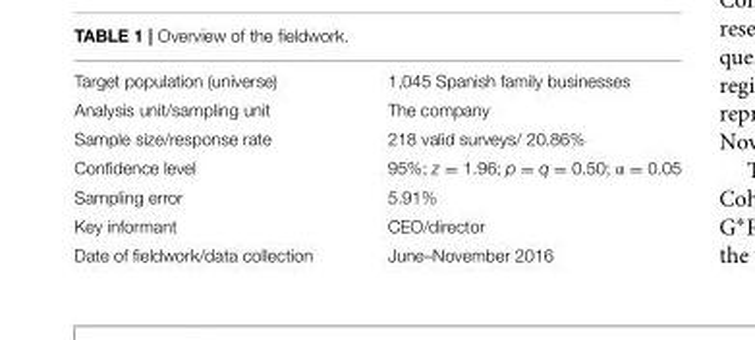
<table><tbody><tr><td>Target population (universe)</td><td>1,045 Spanish family businesses</td></tr><tr><td>Analysis unit/sampling unit</td><td>The company</td></tr><tr><td>Sample size/response rate</td><td>218 valid surveys/ 20.86%</td></tr><tr><td>Confidence level</td><td>95%; z = 1.96; p = q = 0.50; α = 0.05</td></tr><tr><td>Sampling error</td><td>5.91%</td></tr><tr><td>Key informant</td><td>CEO/director</td></tr><tr><td>Date of fieldwork/data collection</td><td>June–November 2016</td></tr></tbody></table>